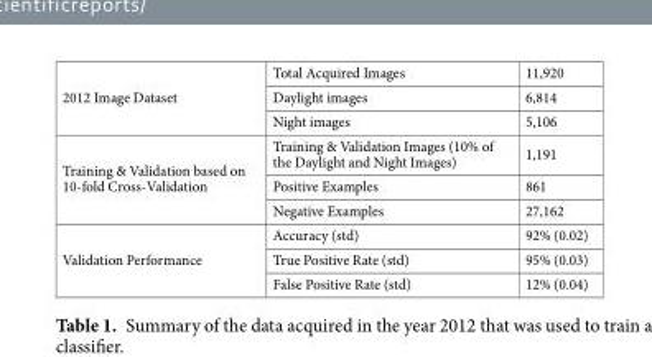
<table><tbody><tr><td rowspan="3">2012 Image Dataset</td><td>Total Acquired Images</td><td>11,920</td></tr><tr><td>Daylight images</td><td>6,814</td></tr><tr><td>Night images</td><td>5,106</td></tr><tr><td rowspan="3">Training &amp; Validation based on 10-fold Cross-Validation</td><td>Training &amp; Validation Images (10% of the Daylight and Night Images)</td><td>1,191</td></tr><tr><td>Positive Examples</td><td>861</td></tr><tr><td>Negative Examples</td><td>27,162</td></tr><tr><td rowspan="3">Validation Performance</td><td>Accuracy (std)</td><td>92% (0.02)</td></tr><tr><td>True Positive Rate (std)</td><td>95% (0.03)</td></tr><tr><td>False Positive Rate (std)</td><td>12% (0.04)</td></tr></tbody></table>